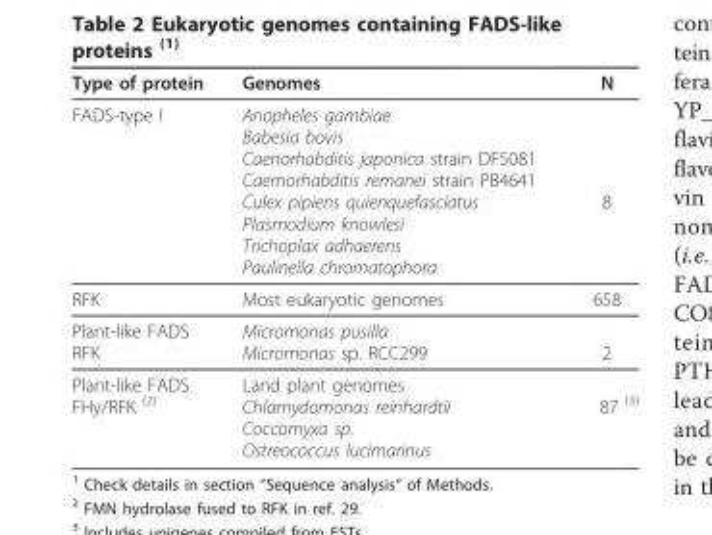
<table><thead><tr><td>Type of protein</td><td>Genomes</td><td>N</td></tr></thead><tbody><tr><td>FADS-type I</td><td>Anopheles gambiae Babesia bovis Caenorhabditis japonica strain DF5081 Caernorhabditis remanei strain PB4641 Culex pipiens quienquefasciatus Plasmodium knowlesi Trichoplax adhaerens Paulinella chromatophora</td><td>8</td></tr><tr><td>RFK</td><td>Most eukaryotic genomes</td><td>658</td></tr><tr><td>Plant-like FADS RFK</td><td>Micromonas pusilla Micromonas sp. RCC299</td><td>2</td></tr><tr><td>Plant-like FADS FHy/RFK <sup>(2)</sup></td><td>Land plant genomes Chlamydomonas reinhardtii Coccomyxa sp. Ostreococcus lucimarinus</td><td>87 <sup>(3)</sup></td></tr></tbody></table>